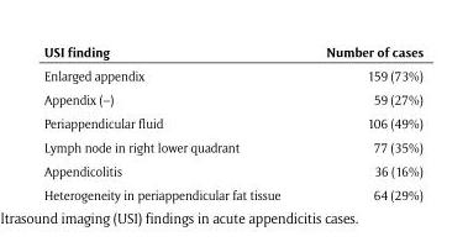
<table><thead><tr><td>USI finding</td><td>Number of cases</td></tr></thead><tbody><tr><td>Enlarged appendix</td><td>159 (73%)</td></tr><tr><td>Appendix (–)</td><td>59 (27%)</td></tr><tr><td>Periappendicular fluid</td><td>106 (49%)</td></tr><tr><td>Lymph node in right lower quadrant</td><td>77 (35%)</td></tr><tr><td>Appendicolitis</td><td>36 (16%)</td></tr><tr><td>Heterogeneity in periappendicular fat tissue</td><td>64 (29%)</td></tr></tbody></table>